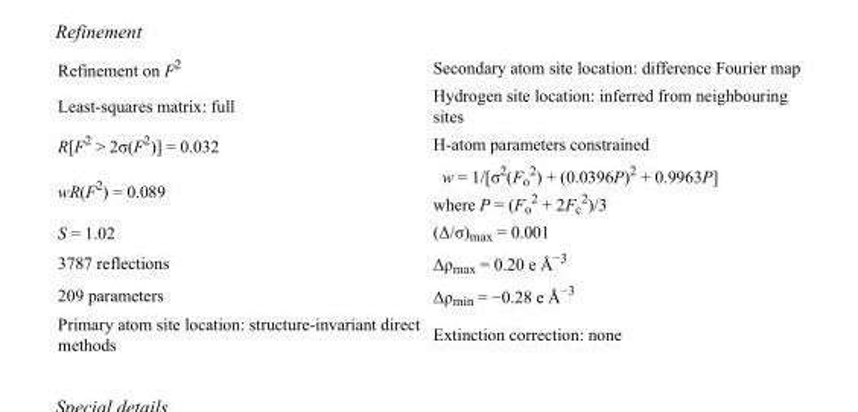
<table><tbody><tr><td>Refinement on F<sup>2</sup></td><td>Secondary atom site location: difference Fourier map</td></tr><tr><td>Least-squares matrix: full</td><td>Hydrogen site location: inferred from neighbouring sites</td></tr><tr><td>R[F<sup>2</sup> &gt; 2σ(F<sup>2</sup>)] = 0.032</td><td>H-atom parameters constrained</td></tr><tr><td>wR(F<sup>2</sup>) = 0.089</td><td>w = 1/[σ<sup>2</sup>(F<sub>o</sub> <sup>2</sup>) + (0.0396P)<sup>2</sup> + 0.9963P] where P = (F<sub>o</sub> <sup>2</sup> + 2F<sub>c</sub> <sup>2</sup>)/3</td></tr><tr><td>S = 1.02</td><td>(Δ/σ)<sub>max</sub> = 0.001</td></tr><tr><td>3787 reflections</td><td>Δρ<sub>max</sub> = 0.20 e Å<sup>−3</sup></td></tr><tr><td>209 parameters</td><td>Δρ<sub>min</sub> = −0.28 e Å<sup>−3</sup></td></tr><tr><td>Primary atom site location: structure-invariant direct methods</td><td>Extinction correction: none</td></tr></tbody></table>